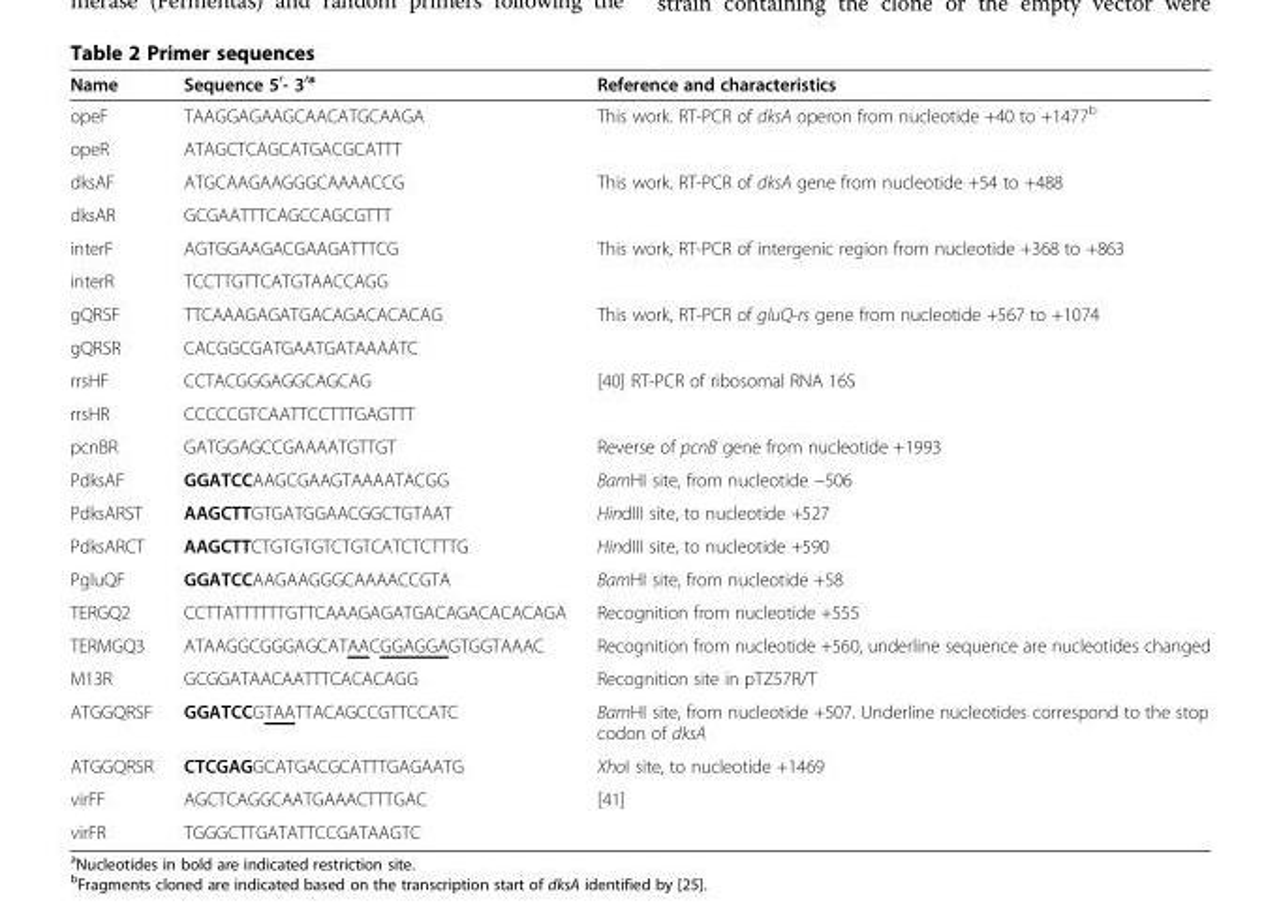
<table><thead><tr><td>Name</td><td>Sequence 5<sup>′</sup>- 3<sup>′a</sup></td><td>Reference and characteristics</td></tr></thead><tbody><tr><td>opeF</td><td>TAAGGAGAAGCAACATGCAAGA</td><td rowspan="2">This work. RT-PCR of dksA operon from nucleotide +40 to +1477<sup>b</sup></td></tr><tr><td>opeR</td><td>ATAGCTCAGCATGACGCATTT</td></tr><tr><td>dksAF</td><td>ATGCAAGAAGGGCAAAACCG</td><td rowspan="2">This work. RT-PCR of dksA gene from nucleotide +54 to +488</td></tr><tr><td>dksAR</td><td>GCGAATTTCAGCCAGCGTTT</td></tr><tr><td>interF</td><td>AGTGGAAGACGAAGATTTCG</td><td rowspan="2">This work, RT-PCR of intergenic region from nucleotide +368 to +863</td></tr><tr><td>interR</td><td>TCCTTGTTCATGTAACCAGG</td></tr><tr><td>gQRSF</td><td>TTCAAAGAGATGACAGACACACAG</td><td rowspan="2">This work, RT-PCR of gluQ-rs gene from nucleotide +567 to +1074</td></tr><tr><td>gQRSR</td><td>CACGGCGATGAATGATAAAATC</td></tr><tr><td>rrsHF</td><td>CCTACGGGAGGCAGCAG</td><td rowspan="2">[40] RT-PCR of ribosomal RNA 16S</td></tr><tr><td>rrsHR</td><td>CCCCCGTCAATTCCTTTGAGTTT</td></tr><tr><td>pcnBR</td><td>GATGGAGCCGAAAATGTTGT</td><td>Reverse of pcnB gene from nucleotide +1993</td></tr><tr><td>PdksAF</td><td>GGATCCAAGCGAAGTAAAATACGG</td><td>BamHI site, from nucleotide −506</td></tr><tr><td>PdksARST</td><td>AAGCTTGTGATGGAACGGCTGTAAT</td><td>HindIII site, to nucleotide +527</td></tr><tr><td>PdksARCT</td><td>AAGCTTCTGTGTGTCTGTCATCTCTTTG</td><td>HindIII site, to nucleotide +590</td></tr><tr><td>PgluQF</td><td>GGATCCAAGAAGGGCAAAACCGTA</td><td>BamHI site, from nucleotide +58</td></tr><tr><td>TERGQ2</td><td>CCTTATTTTTTGTTCAAAGAGATGACAGACACACAGA</td><td>Recognition from nucleotide +555</td></tr><tr><td>TERMGQ3</td><td>ATAAGGCGGGAGCATAACGGAGGAGTGGTAAAC</td><td>Recognition from nucleotide +560, underline sequence are nucleotides changed</td></tr><tr><td>M13R</td><td>GCGGATAACAATTTCACACAGG</td><td>Recognition site in pTZ57R/T</td></tr><tr><td>ATGGQRSF</td><td>GGATCCGTAATTACAGCCGTTCCATC</td><td>BamHI site, from nucleotide +507. Underline nucleotides correspond to the stop codon of dksA</td></tr><tr><td>ATGGQRSR</td><td>CTCGAGGCATGACGCATTTGAGAATG</td><td>XhoI site, to nucleotide +1469</td></tr><tr><td>virFF</td><td>AGCTCAGGCAATGAAACTTTGAC</td><td rowspan="2">[41]</td></tr><tr><td>virFR</td><td>TGGGCTTGATATTCCGATAAGTC</td></tr></tbody></table>